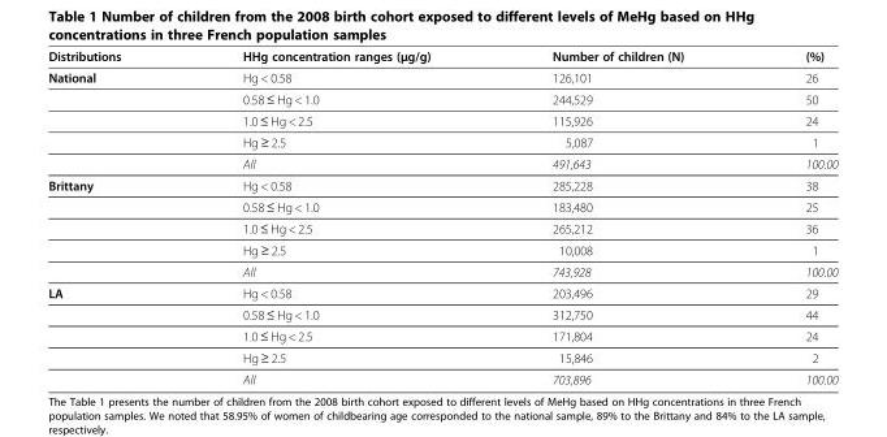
<table><thead><tr><td>Distributions</td><td>HHg concentration ranges (μg/g)</td><td>Number of children (N)</td><td>(%)</td></tr></thead><tbody><tr><td rowspan="5">National</td><td>Hg &lt; 0.58</td><td>126,101</td><td>26</td></tr><tr><td>0.58 ≤ Hg &lt; 1.0</td><td>244,529</td><td>50</td></tr><tr><td>1.0 ≤ Hg &lt; 2.5</td><td>115,926</td><td>24</td></tr><tr><td>Hg ≥ 2.5</td><td>5,087</td><td>1</td></tr><tr><td>All</td><td>491,643</td><td>100.00</td></tr><tr><td rowspan="5">Brittany</td><td>Hg &lt; 0.58</td><td>285,228</td><td>38</td></tr><tr><td>0.58 ≤ Hg &lt; 1.0</td><td>183,480</td><td>25</td></tr><tr><td>1.0 ≤ Hg &lt; 2.5</td><td>265,212</td><td>36</td></tr><tr><td>Hg ≥ 2.5</td><td>10,008</td><td>1</td></tr><tr><td>All</td><td>743,928</td><td>100.00</td></tr><tr><td rowspan="5">LA</td><td>Hg &lt; 0.58</td><td>203,496</td><td>29</td></tr><tr><td>0.58 ≤ Hg &lt; 1.0</td><td>312,750</td><td>44</td></tr><tr><td>1.0 ≤ Hg &lt; 2.5</td><td>171,804</td><td>24</td></tr><tr><td>Hg ≥ 2.5</td><td>15,846</td><td>2</td></tr><tr><td>All</td><td>703,896</td><td>100.00</td></tr></tbody></table>